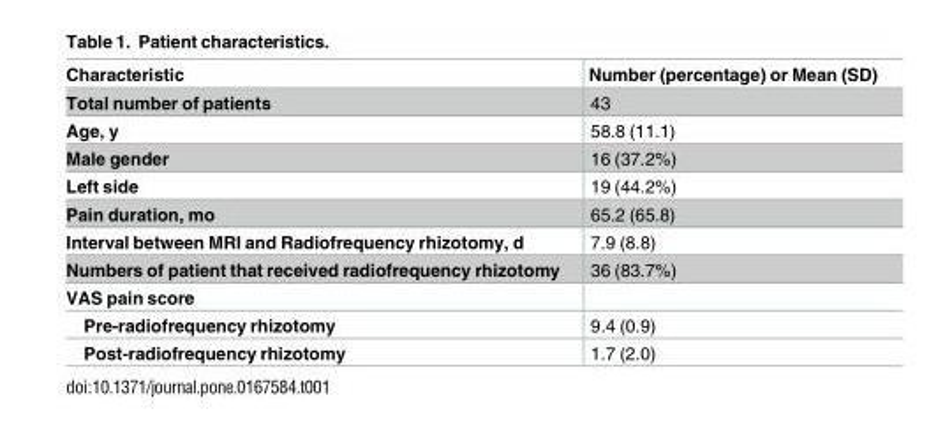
<table><thead><tr><td>Characteristic</td><td>Number (percentage) or Mean (SD)</td></tr></thead><tbody><tr><td>Total number of patients</td><td>43</td></tr><tr><td>Age, y</td><td>58.8 (11.1)</td></tr><tr><td>Male gender</td><td>16 (37.2%)</td></tr><tr><td>Left side</td><td>19 (44.2%)</td></tr><tr><td>Pain duration, mo</td><td>65.2 (65.8)</td></tr><tr><td>Interval between MRI and Radiofrequency rhizotomy, d</td><td>7.9 (8.8)</td></tr><tr><td>Numbers of patient that received radiofrequency rhizotomy</td><td>36 (83.7%)</td></tr><tr><td colspan="2">VAS pain score</td></tr><tr><td>Pre-radiofrequency rhizotomy</td><td>9.4 (0.9)</td></tr><tr><td>Post-radiofrequency rhizotomy</td><td>1.7 (2.0)</td></tr></tbody></table>